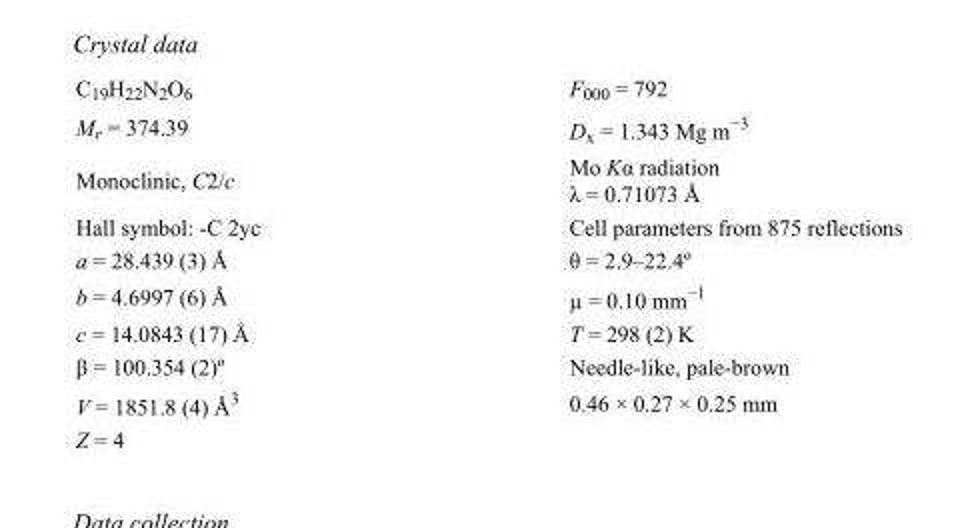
<table><tbody><tr><td>C<sub>19</sub>H<sub>22</sub>N<sub>2</sub>O<sub>6</sub></td><td>F<sub>000</sub> = 792</td></tr><tr><td>M<sub>r</sub> = 374.39</td><td>D<sub>x</sub> = 1.343 Mg m<sup>−3</sup></td></tr><tr><td>Monoclinic, C2/c</td><td>Mo Kα radiation λ = 0.71073 Å</td></tr><tr><td>Hall symbol: -C 2yc</td><td>Cell parameters from 875 reflections</td></tr><tr><td>a = 28.439 (3) Å</td><td>θ = 2.9–22.4º</td></tr><tr><td>b = 4.6997 (6) Å</td><td>µ = 0.10 mm<sup>−1</sup></td></tr><tr><td>c = 14.0843 (17) Å</td><td>T = 298 (2) K</td></tr><tr><td>β = 100.354 (2)º</td><td>Needle-like, pale-brown</td></tr><tr><td>V = 1851.8 (4) Å<sup>3</sup></td><td>0.46 × 0.27 × 0.25 mm</td></tr><tr><td>Z = 4</td><td></td></tr></tbody></table>